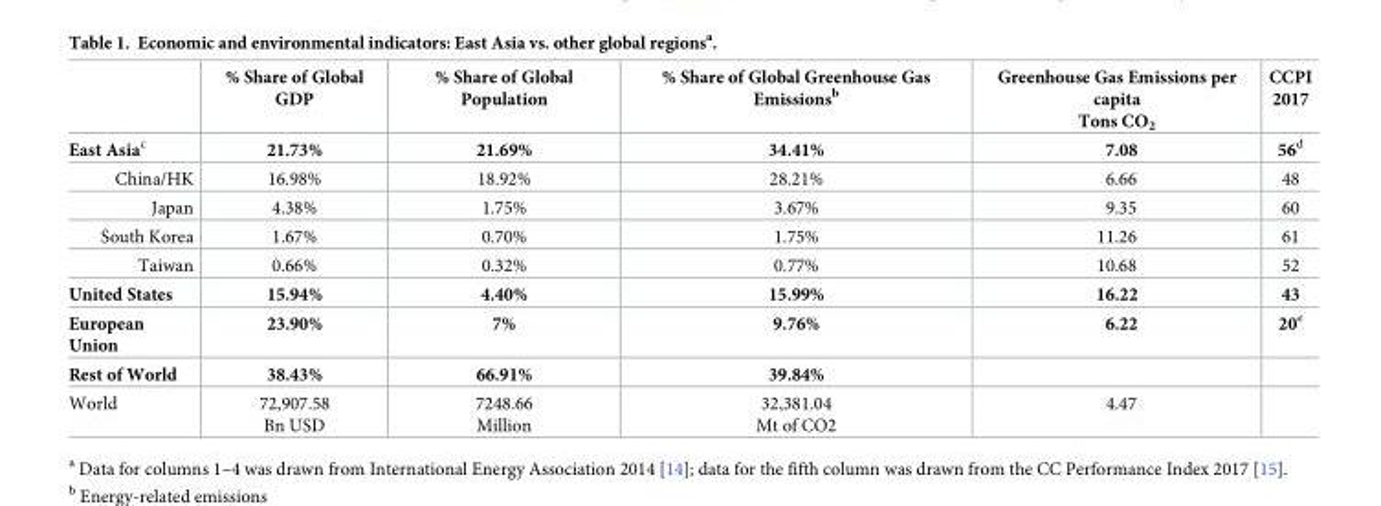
<table><thead><tr><td></td><td>% Share of Global GDP</td><td>% Share of Global Population</td><td>% Share of Global Greenhouse Gas Emissions<sup>b</sup></td><td>Greenhouse Gas Emissions per capita Tons CO<sub>2</sub></td><td>CCPI 2017</td></tr></thead><tbody><tr><td>East Asia<sup>c</sup></td><td>21.73%</td><td>21.69%</td><td>34.41%</td><td>7.08</td><td>56<sup>d</sup></td></tr><tr><td>China/HK</td><td>16.98%</td><td>18.92%</td><td>28.21%</td><td>6.66</td><td>48</td></tr><tr><td>Japan</td><td>4.38%</td><td>1.75%</td><td>3.67%</td><td>9.35</td><td>60</td></tr><tr><td>South Korea</td><td>1.67%</td><td>0.70%</td><td>1.75%</td><td>11.26</td><td>61</td></tr><tr><td>Taiwan</td><td>0.66%</td><td>0.32%</td><td>0.77%</td><td>10.68</td><td>52</td></tr><tr><td>United States</td><td>15.94%</td><td>4.40%</td><td>15.99%</td><td>16.22</td><td>43</td></tr><tr><td>European Union</td><td>23.90%</td><td>7%</td><td>9.76%</td><td>6.22</td><td>20<sup>e</sup></td></tr><tr><td>Rest of World</td><td>38.43%</td><td>66.91%</td><td>39.84%</td><td></td><td></td></tr><tr><td>World</td><td>72,907.58 Bn USD</td><td>7248.66 Million</td><td>32,381.04 Mt of CO2</td><td>4.47</td><td></td></tr></tbody></table>